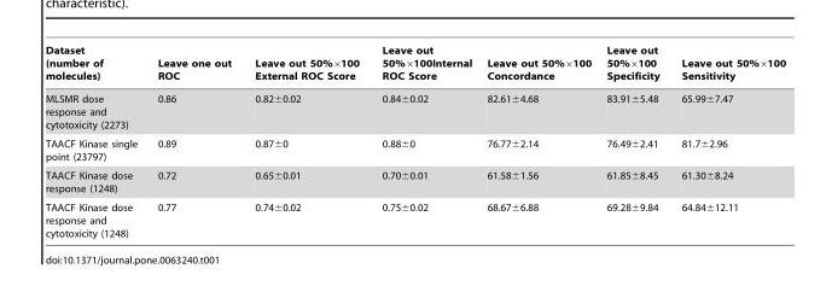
<table><thead><tr><td>Dataset (number of molecules)</td><td>Leave one out ROC</td><td>Leave out 50%×100 External ROC Score</td><td>Leave out 50%×100Internal ROC Score</td><td>Leave out 50%×100 Concordance</td><td>Leave out 50%×100 Specificity</td><td>Leave out 50%×100 Sensitivity</td></tr></thead><tbody><tr><td>MLSMR dose response and cytotoxicity (2273)</td><td>0.86</td><td>0.82±0.02</td><td>0.84±0.02</td><td>82.61±4.68</td><td>83.91±5.48</td><td>65.99±7.47</td></tr><tr><td>TAACF Kinase single point (23797)</td><td>0.89</td><td>0.87±0</td><td>0.88±0</td><td>76.77±2.14</td><td>76.49±2.41</td><td>81.7±2.96</td></tr><tr><td>TAACF Kinase dose response (1248)</td><td>0.72</td><td>0.65±0.01</td><td>0.70±0.01</td><td>61.58±1.56</td><td>61.85±8.45</td><td>61.30±8.24</td></tr><tr><td>TAACF Kinase dose response and cytotoxicity (1248)</td><td>0.77</td><td>0.74±0.02</td><td>0.75±0.02</td><td>68.67±6.88</td><td>69.28±9.84</td><td>64.84±12.11</td></tr></tbody></table>